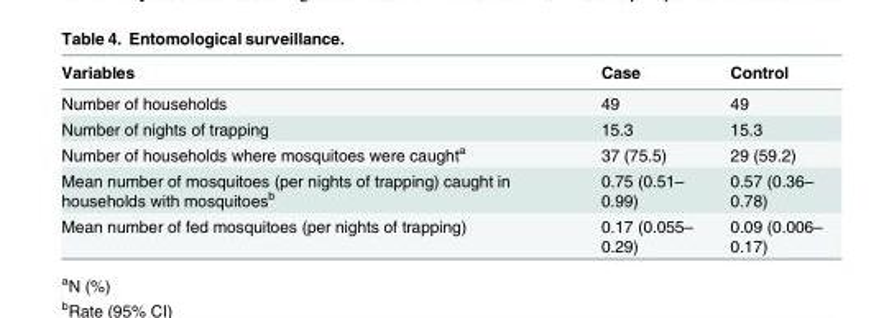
<table><thead><tr><td>Variables</td><td>Case</td><td>Control</td></tr></thead><tbody><tr><td>Number of households</td><td>49</td><td>49</td></tr><tr><td>Number of nights of trapping</td><td>15.3</td><td>15.3</td></tr><tr><td>Number of households where mosquitoes were caught<sup>a</sup></td><td>37 (75.5)</td><td>29 (59.2)</td></tr><tr><td>Mean number of mosquitoes (per nights of trapping) caught in households with mosquitoes<sup>b</sup></td><td>0.75 (0.51– 0.99)</td><td>0.57 (0.36– 0.78)</td></tr><tr><td>Mean number of fed mosquitoes (per nights of trapping)</td><td>0.17 (0.055– 0.29)</td><td>0.09 (0.006– 0.17)</td></tr></tbody></table>